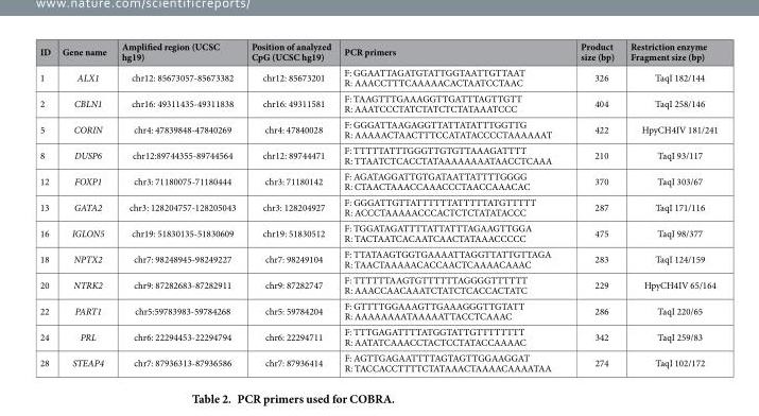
<table><tbody><tr><td>ID</td><td>Gene name</td><td>Amplified region (UCSC hg19)</td><td>Position of analyzed CpG (UCSC hg19)</td><td>PCR primers</td><td>Product size (bp)</td><td>Restriction enzyme Fragment size (bp)</td></tr><tr><td>1</td><td>ALX1</td><td>chr12: 85673057-85673382</td><td>chr12: 85673201</td><td>F: GGAATTAGATGTATTGGTAATTGTTAAT R: AAACCTTTCAAAAACACTAATCCTAAC</td><td>326</td><td>TaqI 182/144</td></tr><tr><td>2</td><td>CBLN1</td><td>chr16: 49311435-49311838</td><td>chr16: 49311581</td><td>F: TAAGTTTGAAAGGTTGATTTAGTTGTT R: AAATCCCTATCTATCTCTATAAATCCC</td><td>404</td><td>TaqI 258/146</td></tr><tr><td>5</td><td>CORIN</td><td>chr4: 47839848-47840269</td><td>chr4: 47840028</td><td>F: GGGATTAAGAGGTTATTATATTTGGTTG R: AAAAACTAACTTTCCATATACCCCTAAAAAAT</td><td>422</td><td>HpyCH4IV 181/241</td></tr><tr><td>8</td><td>DUSP6</td><td>chr12:89744355-89744564</td><td>chr12: 89744471</td><td>F: TTTTTATTTGGGTTGTGTTAAAGATTTT R: TTAATCTCACCTATAAAAAAAATAACCTCAAA</td><td>210</td><td>TaqI 93/117</td></tr><tr><td>12</td><td>FOXP1</td><td>chr3: 71180075-71180444</td><td>chr3: 71180142</td><td>F: AGATAGGATTGTGATAATTATTTTGGGG R: CTAACTAAACCAAACCCTAACCAAACAC</td><td>370</td><td>TaqI 303/67</td></tr><tr><td>13</td><td>GATA2</td><td>chr3: 128204757-128205043</td><td>chr3: 128204927</td><td>F: GGGATTGTTATTTTTTATTTTTATGTTTTT R: ACCCTAAAAACCCACTCTCTATATACCC</td><td>287</td><td>TaqI 171/116</td></tr><tr><td>16</td><td>IGLON5</td><td>chr19: 51830135-51830609</td><td>chr19: 51830512</td><td>F: TGGATAGATTTTATTATTTAGAAGTTGGA R: TACTAATCACAATCAACTATAAACCCCC</td><td>475</td><td>TaqI 98/377</td></tr><tr><td>18</td><td>NPTX2</td><td>chr7: 98248945-98249227</td><td>chr7: 98249104</td><td>F: TTATAAGTGGTGAAAATTAGGTTATTGTTAGA R: TAACTAAAAACACCAACTCAAAACAAAC</td><td>283</td><td>TaqI 124/159</td></tr><tr><td>20</td><td>NTRK2</td><td>chr9: 87282683-87282911</td><td>chr9: 87282747</td><td>F: TTTTTTAAGTGTTTTTTAGGGGTTTTTT R: AAACCAACAAATCTATCTCACCACTATC</td><td>229</td><td>HpyCH4IV 65/164</td></tr><tr><td>22</td><td>PART1</td><td>chr5:59783983-59784268</td><td>chr5: 59784204</td><td>F: GTTTTGGAAAGTTGAAAGGGTTGTATT R: AAAAAAAATAAAAATTACCTCAAAC</td><td>286</td><td>TaqI 220/65</td></tr><tr><td>24</td><td>PRL</td><td>chr6: 22294453-22294794</td><td>chr6: 22294711</td><td>F: TTTGAGATTTTATGGTATTGTTTTTTTT R: AATATCAAACCTACTCCTATACCAAAAC</td><td>342</td><td>TaqI 259/83</td></tr><tr><td>28</td><td>STEAP4</td><td>chr7: 87936313-87936586</td><td>chr7: 87936414</td><td>F: AGTTGAGAATTTTAGTAGTTGGAAGGAT R: TACCACCTTTTCTATAAACTAAAACAAAATAA</td><td>274</td><td>TaqI 102/172</td></tr></tbody></table>